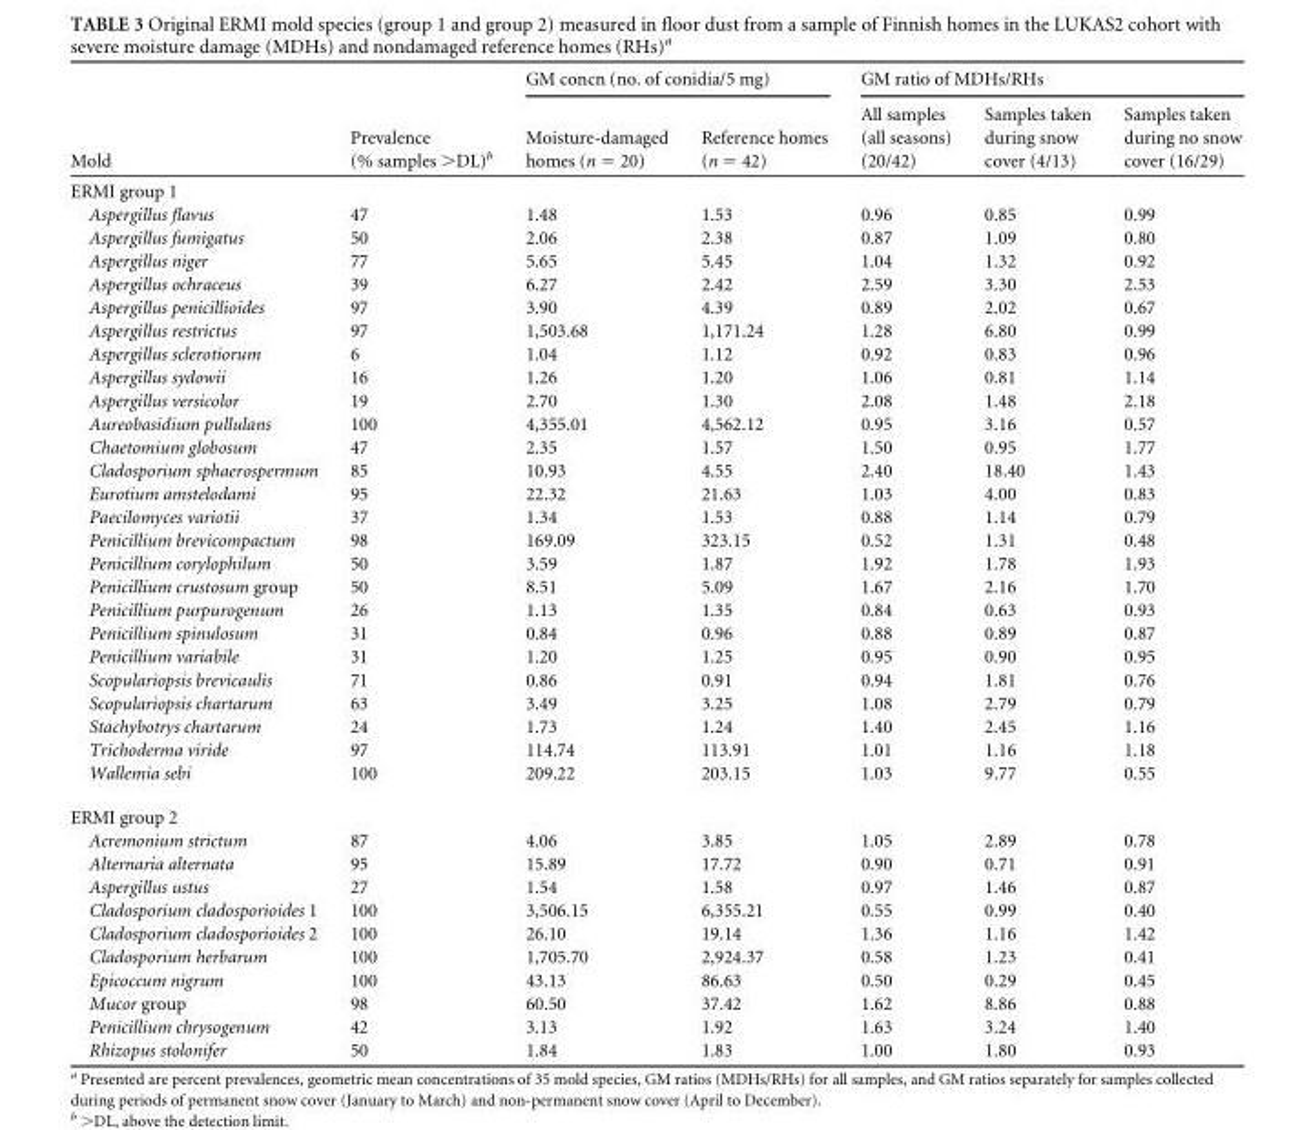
<table><thead><tr><td rowspan="2">Mold</td><td rowspan="2">Prevalence (% samples &gt;DL)<sup>b</sup></td><td colspan="2">GM concn (no. of conidia/5 mg)</td><td colspan="3">GM ratio of MDHs/RHs</td></tr><tr><td>Moisture-damaged homes (n = 20)</td><td>Reference homes (n = 42)</td><td>All samples (all seasons) (20/42)</td><td>Samples taken during snow cover (4/13)</td><td>Samples taken during no snow cover (16/29)</td></tr></thead><tbody><tr><td colspan="7">ERMI group 1</td></tr><tr><td>Aspergillus flavus</td><td>47</td><td>1.48</td><td>1.53</td><td>0.96</td><td>0.85</td><td>0.99</td></tr><tr><td>Aspergillus fumigatus</td><td>50</td><td>2.06</td><td>2.38</td><td>0.87</td><td>1.09</td><td>0.80</td></tr><tr><td>Aspergillus niger</td><td>77</td><td>5.65</td><td>5.45</td><td>1.04</td><td>1.32</td><td>0.92</td></tr><tr><td>Aspergillus ochraceus</td><td>39</td><td>6.27</td><td>2.42</td><td>2.59</td><td>3.30</td><td>2.53</td></tr><tr><td>Aspergillus penicillioides</td><td>97</td><td>3.90</td><td>4.39</td><td>0.89</td><td>2.02</td><td>0.67</td></tr><tr><td>Aspergillus restrictus</td><td>97</td><td>1,503.68</td><td>1,171.24</td><td>1.28</td><td>6.80</td><td>0.99</td></tr><tr><td>Aspergillus sclerotiorum</td><td>6</td><td>1.04</td><td>1.12</td><td>0.92</td><td>0.83</td><td>0.96</td></tr><tr><td>Aspergillus sydowii</td><td>16</td><td>1.26</td><td>1.20</td><td>1.06</td><td>0.81</td><td>1.14</td></tr><tr><td>Aspergillus versicolor</td><td>19</td><td>2.70</td><td>1.30</td><td>2.08</td><td>1.48</td><td>2.18</td></tr><tr><td>Aureobasidium pullulans</td><td>100</td><td>4,355.01</td><td>4,562.12</td><td>0.95</td><td>3.16</td><td>0.57</td></tr><tr><td>Chaetomium globosum</td><td>47</td><td>2.35</td><td>1.57</td><td>1.50</td><td>0.95</td><td>1.77</td></tr><tr><td>Cladosporium sphaerospermum</td><td>85</td><td>10.93</td><td>4.55</td><td>2.40</td><td>18.40</td><td>1.43</td></tr><tr><td>Eurotium amstelodami</td><td>95</td><td>22.32</td><td>21.63</td><td>1.03</td><td>4.00</td><td>0.83</td></tr><tr><td>Paecilomyces variotii</td><td>37</td><td>1.34</td><td>1.53</td><td>0.88</td><td>1.14</td><td>0.79</td></tr><tr><td>Penicillium brevicompactum</td><td>98</td><td>169.09</td><td>323.15</td><td>0.52</td><td>1.31</td><td>0.48</td></tr><tr><td>Penicillium corylophilum</td><td>50</td><td>3.59</td><td>1.87</td><td>1.92</td><td>1.78</td><td>1.93</td></tr><tr><td>Penicillium crustosum group</td><td>50</td><td>8.51</td><td>5.09</td><td>1.67</td><td>2.16</td><td>1.70</td></tr><tr><td>Penicillium purpurogenum</td><td>26</td><td>1.13</td><td>1.35</td><td>0.84</td><td>0.63</td><td>0.93</td></tr><tr><td>Penicillium spinulosum</td><td>31</td><td>0.84</td><td>0.96</td><td>0.88</td><td>0.89</td><td>0.87</td></tr><tr><td>Penicillium variabile</td><td>31</td><td>1.20</td><td>1.25</td><td>0.95</td><td>0.90</td><td>0.95</td></tr><tr><td>Scopulariopsis brevicaulis</td><td>71</td><td>0.86</td><td>0.91</td><td>0.94</td><td>1.81</td><td>0.76</td></tr><tr><td>Scopulariopsis chartarum</td><td>63</td><td>3.49</td><td>3.25</td><td>1.08</td><td>2.79</td><td>0.79</td></tr><tr><td>Stachybotrys chartarum</td><td>24</td><td>1.73</td><td>1.24</td><td>1.40</td><td>2.45</td><td>1.16</td></tr><tr><td>Trichoderma viride</td><td>97</td><td>114.74</td><td>113.91</td><td>1.01</td><td>1.16</td><td>1.18</td></tr><tr><td>Wallemia sebi</td><td>100</td><td>209.22</td><td>203.15</td><td>1.03</td><td>9.77</td><td>0.55</td></tr><tr><td colspan="7">ERMI group 2</td></tr><tr><td>Acremonium strictum</td><td>87</td><td>4.06</td><td>3.85</td><td>1.05</td><td>2.89</td><td>0.78</td></tr><tr><td>Alternaria alternata</td><td>95</td><td>15.89</td><td>17.72</td><td>0.90</td><td>0.71</td><td>0.91</td></tr><tr><td>Aspergillus ustus</td><td>27</td><td>1.54</td><td>1.58</td><td>0.97</td><td>1.46</td><td>0.87</td></tr><tr><td>Cladosporium cladosporioides 1</td><td>100</td><td>3,506.15</td><td>6,355.21</td><td>0.55</td><td>0.99</td><td>0.40</td></tr><tr><td>Cladosporium cladosporioides 2</td><td>100</td><td>26.10</td><td>19.14</td><td>1.36</td><td>1.16</td><td>1.42</td></tr><tr><td>Cladosporium herbarum</td><td>100</td><td>1,705.70</td><td>2,924.37</td><td>0.58</td><td>1.23</td><td>0.41</td></tr><tr><td>Epicoccum nigrum</td><td>100</td><td>43.13</td><td>86.63</td><td>0.50</td><td>0.29</td><td>0.45</td></tr><tr><td>Mucor group</td><td>98</td><td>60.50</td><td>37.42</td><td>1.62</td><td>8.86</td><td>0.88</td></tr><tr><td>Penicillium chrysogenum</td><td>42</td><td>3.13</td><td>1.92</td><td>1.63</td><td>3.24</td><td>1.40</td></tr><tr><td>Rhizopus stolonifer</td><td>50</td><td>1.84</td><td>1.83</td><td>1.00</td><td>1.80</td><td>0.93</td></tr></tbody></table>